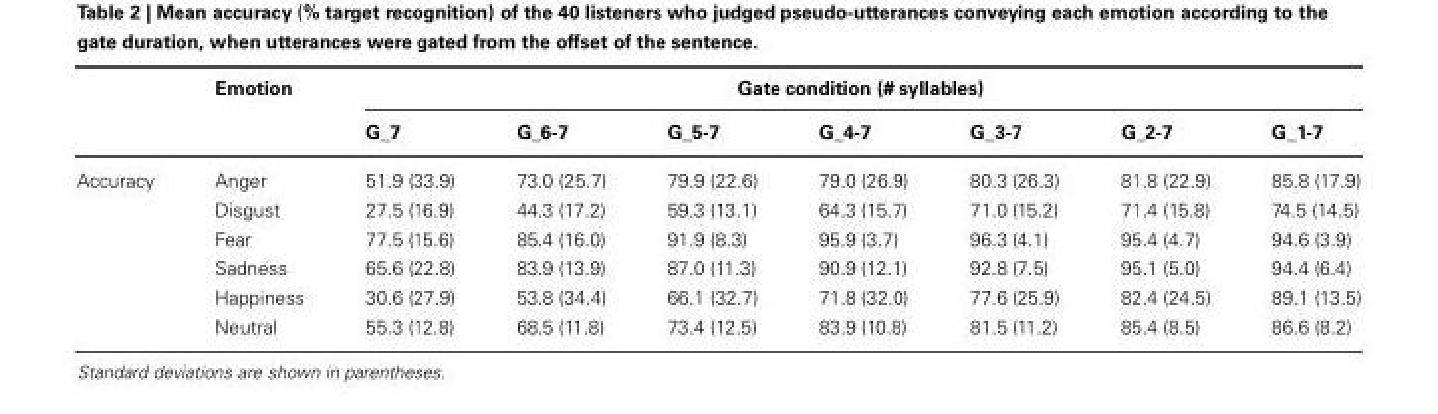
<table><thead><tr><td rowspan="2"></td><td rowspan="2">Emotion</td><td colspan="7">Gate condition (# syllables)</td></tr><tr><td>G_7</td><td>G_6-7</td><td>G_5-7</td><td>G_4-7</td><td>G_3-7</td><td>G_2-7</td><td>G_1-7</td></tr></thead><tbody><tr><td rowspan="6">Accuracy</td><td>Anger</td><td>51.9 (33.9)</td><td>73.0 (25.7)</td><td>79.9 (22.6)</td><td>79.0 (26.9)</td><td>80.3 (26.3)</td><td>81.8 (22.9)</td><td>85.8 (17.9)</td></tr><tr><td>Disgust</td><td>27.5 (16.9)</td><td>44.3 (17.2)</td><td>59.3 (13.1)</td><td>64.3 (15.7)</td><td>71.0 (15.2)</td><td>71.4 (15.8)</td><td>74.5 (14.5)</td></tr><tr><td>Fear</td><td>77.5 (15.6)</td><td>85.4 (16.0)</td><td>91.9 (8.3)</td><td>95.9 (3.7)</td><td>96.3 (4.1)</td><td>95.4 (4.7)</td><td>94.6 (3.9)</td></tr><tr><td>Sadness</td><td>65.6 (22.8)</td><td>83.9 (13.9)</td><td>87.0 (11.3)</td><td>90.9 (12.1)</td><td>92.8 (7.5)</td><td>95.1 (5.0)</td><td>94.4 (6.4)</td></tr><tr><td>Happiness</td><td>30.6 (27.9)</td><td>53.8 (34.4)</td><td>66.1 (32.7)</td><td>71.8 (32.0)</td><td>77.6 (25.9)</td><td>82.4 (24.5)</td><td>89.1 (13.5)</td></tr><tr><td>Neutral</td><td>55.3 (12.8)</td><td>68.5 (11.8)</td><td>73.4 (12.5)</td><td>83.9 (10.8)</td><td>81.5 (11.2)</td><td>85.4 (8.5)</td><td>86.6 (8.2)</td></tr></tbody></table>